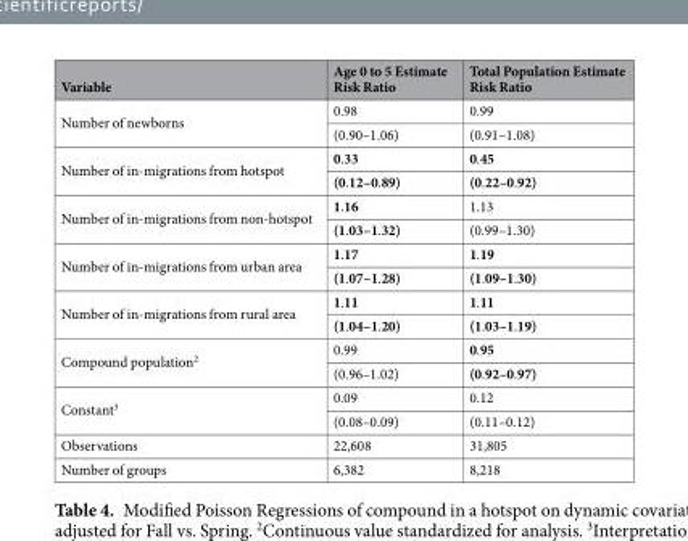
<table><thead><tr><td>Variable</td><td>Age 0 to 5 Estimate Risk Ratio</td><td>Total Population Estimate Risk Ratio</td></tr></thead><tbody><tr><td rowspan="2">Number of newborns</td><td>0.98</td><td>0.99</td></tr><tr><td>(0.90–1.06)</td><td>(0.91–1.08)</td></tr><tr><td rowspan="2">Number of in-migrations from hotspot</td><td>0.33</td><td>0.45</td></tr><tr><td>(0.12–0.89)</td><td>(0.22–0.92)</td></tr><tr><td rowspan="2">Number of in-migrations from non-hotspot</td><td>1.16</td><td>1.13</td></tr><tr><td>(1.03–1.32)</td><td>(0.99–1.30)</td></tr><tr><td rowspan="2">Number of in-migrations from urban area</td><td>1.17</td><td>1.19</td></tr><tr><td>(1.07–1.28)</td><td>(1.09–1.30)</td></tr><tr><td rowspan="2">Number of in-migrations from rural area</td><td>1.11</td><td>1.11</td></tr><tr><td>(1.04–1.20)</td><td>(1.03–1.19)</td></tr><tr><td rowspan="2">Compound population<sup>2</sup></td><td>0.99</td><td>0.95</td></tr><tr><td>(0.96–1.02)</td><td>(0.92–0.97)</td></tr><tr><td rowspan="2">Constant<sup>3</sup></td><td>0.09</td><td>0.12</td></tr><tr><td>(0.08–0.09)</td><td>(0.11–0.12)</td></tr><tr><td>Observations</td><td>22,608</td><td>31,805</td></tr><tr><td>Number of groups</td><td>6,382</td><td>8,218</td></tr></tbody></table>